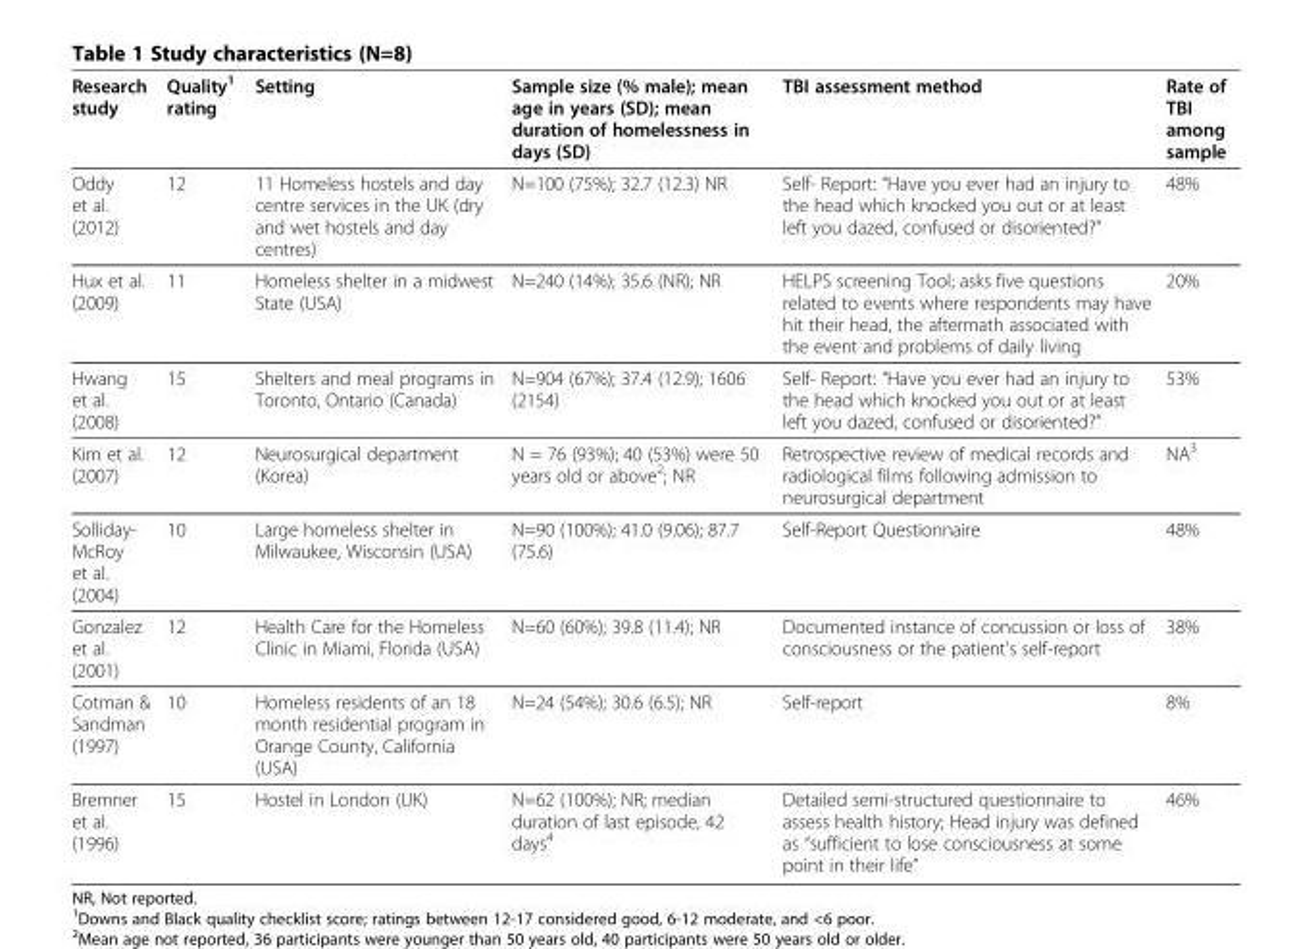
<table><thead><tr><td>Research study</td><td>Quality<sup>1</sup> rating</td><td>Setting</td><td>Sample size (% male); mean age in years (SD); mean duration of homelessness in days (SD)</td><td>TBI assessment method</td><td>Rate of TBI among sample</td></tr></thead><tbody><tr><td>Oddy et al. (2012)</td><td>12</td><td>11 Homeless hostels and day centre services in the UK (dry and wet hostels and day centres)</td><td>N=100 (75%); 32.7 (12.3) NR</td><td>Self- Report: “Have you ever had an injury to the head which knocked you out or at least left you dazed, confused or disoriented?”</td><td>48%</td></tr><tr><td>Hux et al. (2009)</td><td>11</td><td>Homeless shelter in a midwest State (USA)</td><td>N=240 (14%); 35.6 (NR); NR</td><td>HELPS screening Tool; asks five questions related to events where respondents may have hit their head, the aftermath associated with the event and problems of daily living</td><td>20%</td></tr><tr><td>Hwang et al. (2008)</td><td>15</td><td>Shelters and meal programs in Toronto, Ontario (Canada)</td><td>N=904 (67%); 37.4 (12.9); 1606 (2154)</td><td>Self- Report: “Have you ever had an injury to the head which knocked you out or at least left you dazed, confused or disoriented?”</td><td>53%</td></tr><tr><td>Kim et al. (2007)</td><td>12</td><td>Neurosurgical department (Korea)</td><td>N = 76 (93%); 40 (53%) were 50 years old or above<sup>2</sup>; NR</td><td>Retrospective review of medical records and radiological films following admission to neurosurgical department</td><td>NA<sup>3</sup></td></tr><tr><td>Solliday- McRoy et al. (2004)</td><td>10</td><td>Large homeless shelter in Milwaukee, Wisconsin (USA)</td><td>N=90 (100%); 41.0 (9.06); 87.7 (75.6)</td><td>Self-Report Questionnaire</td><td>48%</td></tr><tr><td>Gonzalez et al. (2001)</td><td>12</td><td>Health Care for the Homeless Clinic in Miami, Florida (USA)</td><td>N=60 (60%); 39.8 (11.4); NR</td><td>Documented instance of concussion or loss of consciousness or the patient&#x27;s self-report</td><td>38%</td></tr><tr><td>Cotman &amp; Sandman (1997)</td><td>10</td><td>Homeless residents of an 18 month residential program in Orange County, California (USA)</td><td>N=24 (54%); 30.6 (6.5); NR</td><td>Self-report</td><td>8%</td></tr><tr><td>Bremner et al. (1996)</td><td>15</td><td>Hostel in London (UK)</td><td>N=62 (100%); NR; median duration of last episode, 42 days<sup>4</sup></td><td>Detailed semi-structured questionnaire to assess health history; Head injury was defined as “sufficient to lose consciousness at some point in their life”</td><td>46%</td></tr></tbody></table>